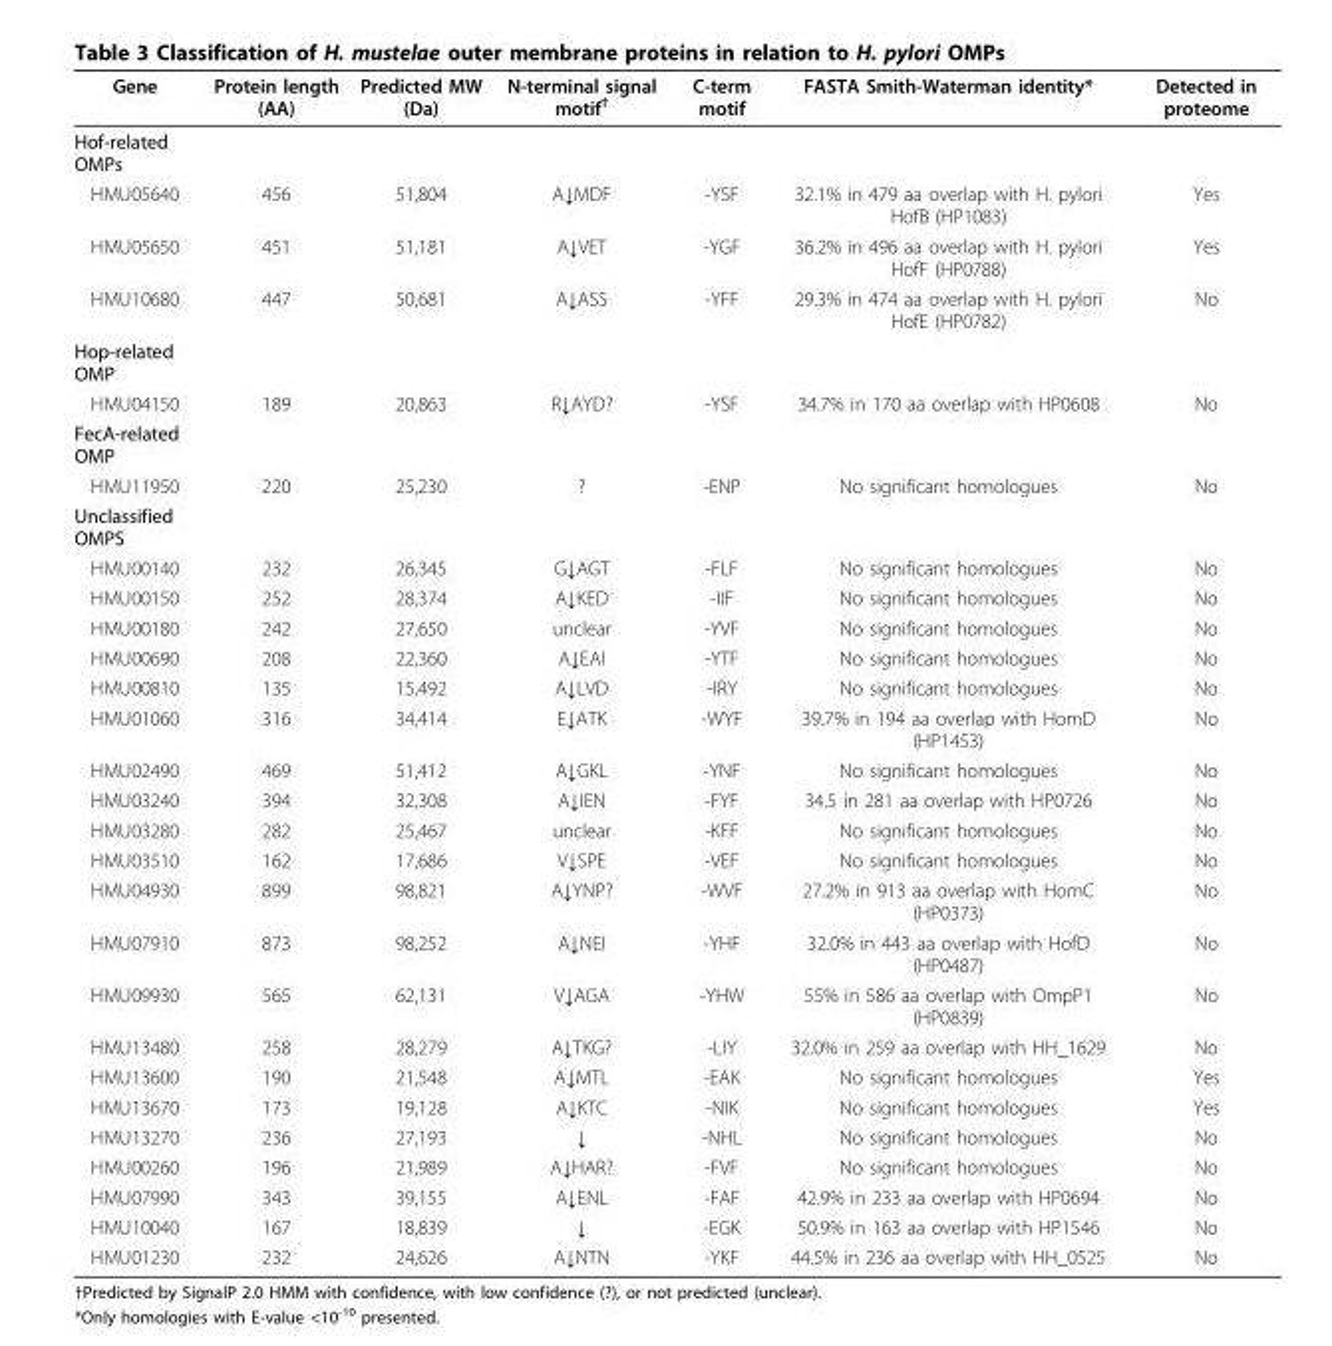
<table><thead><tr><td>Gene</td><td>Protein length (AA)</td><td>Predicted MW (Da)</td><td>N-terminal signal motif<sup>†</sup></td><td>C-term motif</td><td>FASTA Smith-Waterman identity*</td><td>Detected in proteome</td></tr></thead><tbody><tr><td colspan="7">Hof-related OMPs</td></tr><tr><td>HMU05640</td><td>456</td><td>51,804</td><td>A↓MDF</td><td>-YSF</td><td>32.1% in 479 aa overlap with H. pylori HofB (HP1083)</td><td>Yes</td></tr><tr><td>HMU05650</td><td>451</td><td>51,181</td><td>A↓VET</td><td>-YGF</td><td>36.2% in 496 aa overlap with H. pylori HofF (HP0788)</td><td>Yes</td></tr><tr><td>HMU10680</td><td>447</td><td>50,681</td><td>A↓ASS</td><td>-YFF</td><td>29.3% in 474 aa overlap with H. pylori HofE (HP0782)</td><td>No</td></tr><tr><td colspan="7">Hop-related OMP</td></tr><tr><td>HMU04150</td><td>189</td><td>20,863</td><td>R↓AYD?</td><td>-YSF</td><td>34.7% in 170 aa overlap with HP0608</td><td>No</td></tr><tr><td colspan="7">FecA-related OMP</td></tr><tr><td>HMU11950</td><td>220</td><td>25,230</td><td>?</td><td>-ENP</td><td>No significant homologues</td><td>No</td></tr><tr><td colspan="7">Unclassified OMPS</td></tr><tr><td>HMU00140</td><td>232</td><td>26,345</td><td>G↓AGT</td><td>-FLF</td><td>No significant homologues</td><td>No</td></tr><tr><td>HMU00150</td><td>252</td><td>28,374</td><td>A↓KED</td><td>-IIF</td><td>No significant homologues</td><td>No</td></tr><tr><td>HMU00180</td><td>242</td><td>27,650</td><td>unclear</td><td>-YVF</td><td>No significant homologues</td><td>No</td></tr><tr><td>HMU00690</td><td>208</td><td>22,360</td><td>A↓EAI</td><td>-YTF</td><td>No significant homologues</td><td>No</td></tr><tr><td>HMU00810</td><td>135</td><td>15,492</td><td>A↓LVD</td><td>-IRY</td><td>No significant homologues</td><td>No</td></tr><tr><td>HMU01060</td><td>316</td><td>34,414</td><td>E↓ATK</td><td>-WYF</td><td>39.7% in 194 aa overlap with HomD (HP1453)</td><td>No</td></tr><tr><td>HMU02490</td><td>469</td><td>51,412</td><td>A↓GKL</td><td>-YNF</td><td>No significant homologues</td><td>No</td></tr><tr><td>HMU03240</td><td>394</td><td>32,308</td><td>A↓IEN</td><td>-FYF</td><td>34.5 in 281 aa overlap with HP0726</td><td>No</td></tr><tr><td>HMU03280</td><td>282</td><td>25,467</td><td>unclear</td><td>-KFF</td><td>No significant homologues</td><td>No</td></tr><tr><td>HMU03510</td><td>162</td><td>17,686</td><td>V↓SPE</td><td>-VEF</td><td>No significant homologues</td><td>No</td></tr><tr><td>HMU04930</td><td>899</td><td>98,821</td><td>A↓YNP?</td><td>-WVF</td><td>27.2% in 913 aa overlap with HomC (HP0373)</td><td>No</td></tr><tr><td>HMU07910</td><td>873</td><td>98,252</td><td>A↓NEI</td><td>-YHF</td><td>32.0% in 443 aa overlap with HofD (HP0487)</td><td>No</td></tr><tr><td>HMU09930</td><td>565</td><td>62,131</td><td>V↓AGA</td><td>-YHW</td><td>55% in 586 aa overlap with OmpP1 (HP0839)</td><td>No</td></tr><tr><td>HMU13480</td><td>258</td><td>28,279</td><td>A↓TKG?</td><td>-LIY</td><td>32.0% in 259 aa overlap with HH_1629</td><td>No</td></tr><tr><td>HMU13600</td><td>190</td><td>21,548</td><td>A↓MTL</td><td>-EAK</td><td>No significant homologues</td><td>Yes</td></tr><tr><td>HMU13670</td><td>173</td><td>19,128</td><td>A↓KTC</td><td>-NIK</td><td>No significant homologues</td><td>Yes</td></tr><tr><td>HMU13270</td><td>236</td><td>27,193</td><td>↓</td><td>-NHL</td><td>No significant homologues</td><td>No</td></tr><tr><td>HMU00260</td><td>196</td><td>21,989</td><td>A↓HAR?</td><td>-FVF</td><td>No significant homologues</td><td>No</td></tr><tr><td>HMU07990</td><td>343</td><td>39,155</td><td>A↓ENL</td><td>-FAF</td><td>42.9% in 233 aa overlap with HP0694</td><td>No</td></tr><tr><td>HMU10040</td><td>167</td><td>18,839</td><td>↓</td><td>-EGK</td><td>50.9% in 163 aa overlap with HP1546</td><td>No</td></tr><tr><td>HMU01230</td><td>232</td><td>24,626</td><td>A↓NTN</td><td>-YKF</td><td>44.5% in 236 aa overlap with HH_0525</td><td>No</td></tr></tbody></table>